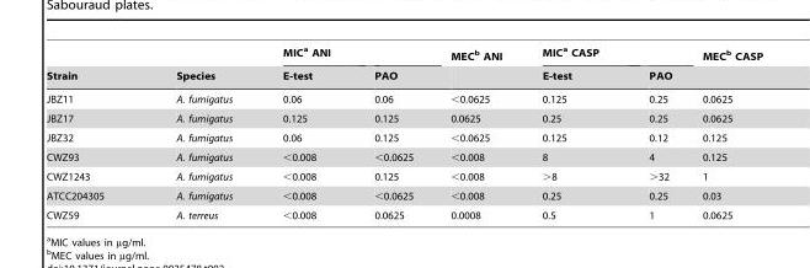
<table><thead><tr><td rowspan="2">Strain</td><td rowspan="2">Species</td><td rowspan="2">MIC<sup>a</sup> ANI E-test</td><td rowspan="2">PAO</td><td rowspan="2">MEC<sup>b</sup> ANI</td><td rowspan="2">MIC<sup>a</sup> CASP E-test</td><td rowspan="2">PAO</td><td rowspan="2">MEC<sup>b</sup> CASP</td></tr><tr></tr></thead><tbody><tr><td>JBZ11</td><td>A. fumigatus</td><td>0.06</td><td>0.06</td><td>&lt;0.0625</td><td>0.125</td><td>0.25</td><td>0.0625</td></tr><tr><td>JBZ17</td><td>A. fumigatus</td><td>0.125</td><td>0.125</td><td>0.0625</td><td>0.25</td><td>0.25</td><td>0.0625</td></tr><tr><td>JBZ32</td><td>A. fumigatus</td><td>0.06</td><td>0.125</td><td>&lt;0.0625</td><td>0.125</td><td>0.12</td><td>0.125</td></tr><tr><td>CWZ93</td><td>A. fumigatus</td><td>&lt;0.008</td><td>&lt;0.0625</td><td>&lt;0.008</td><td>8</td><td>4</td><td>0.125</td></tr><tr><td>CWZ1243</td><td>A. fumigatus</td><td>&lt;0.008</td><td>0.125</td><td>&lt;0.008</td><td>&gt;8</td><td>&gt;32</td><td>1</td></tr><tr><td>ATCC204305</td><td>A. fumigatus</td><td>&lt;0.008</td><td>&lt;0.0625</td><td>&lt;0.008</td><td>0.25</td><td>0.25</td><td>0.03</td></tr><tr><td>CWZ59</td><td>A. terreus</td><td>&lt;0.008</td><td>0.0625</td><td>0.0008</td><td>0.5</td><td>1</td><td>0.0625</td></tr></tbody></table>